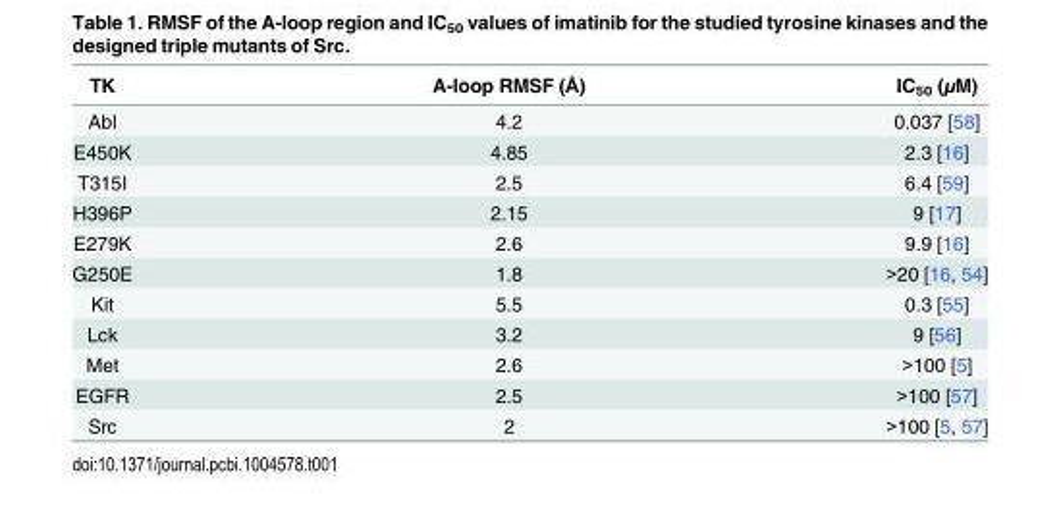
<table><thead><tr><td>TK</td><td>A-loop RMSF (Å)</td><td>IC<sub>50</sub> (μM)</td></tr></thead><tbody><tr><td>Abl</td><td>4.2</td><td>0.037 [58]</td></tr><tr><td>E450K</td><td>4.85</td><td>2.3 [16]</td></tr><tr><td>T315I</td><td>2.5</td><td>6.4 [59]</td></tr><tr><td>H396P</td><td>2.15</td><td>9 [17]</td></tr><tr><td>E279K</td><td>2.6</td><td>9.9 [16]</td></tr><tr><td>G250E</td><td>1.8</td><td>&gt;20 [16, 54]</td></tr><tr><td>Kit</td><td>5.5</td><td>0.3 [55]</td></tr><tr><td>Lck</td><td>3.2</td><td>9 [56]</td></tr><tr><td>Met</td><td>2.6</td><td>&gt;100 [5]</td></tr><tr><td>EGFR</td><td>2.5</td><td>&gt;100 [57]</td></tr><tr><td>Src</td><td>2</td><td>&gt;100 [5, 57]</td></tr></tbody></table>